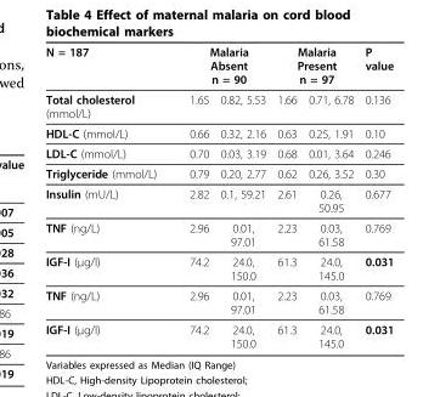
<table><thead><tr><td rowspan="2">N = 187 Total cholesterol (mmol/L)</td><td colspan="2">Malaria Absent n = 90</td><td colspan="2">Malaria Present n = 97</td><td rowspan="2">P value 0.136</td></tr><tr><td>1.65</td><td>0.82, 5.53</td><td>1.66</td><td>0.71, 6.78</td></tr></thead><tbody><tr><td>HDL-C (mmol/L)</td><td>0.66</td><td>0.32, 2.16</td><td>0.63</td><td>0.25, 1.91</td><td>0.10</td></tr><tr><td>LDL-C (mmol/L)</td><td>0.70</td><td>0.03, 3.19</td><td>0.68</td><td>0.01, 3.64</td><td>0.246</td></tr><tr><td>Triglyceride (mmol/L)</td><td>0.79</td><td>0.20, 2.77</td><td>0.62</td><td>0.26, 3.52</td><td>0.30</td></tr><tr><td>Insulin (mU/L)</td><td>2.82</td><td>0.1, 59.21</td><td>2.61</td><td>0.26, 50.95</td><td>0.677</td></tr><tr><td>TNF (ng/L)</td><td>2.96</td><td>0.01, 97.01</td><td>2.23</td><td>0.03, 61.58</td><td>0.769</td></tr><tr><td>IGF-I (μg/l)</td><td>74.2</td><td>24.0, 150.0</td><td>61.3</td><td>24.0, 145.0</td><td>0.031</td></tr><tr><td>TNF (ng/L)</td><td>2.96</td><td>0.01, 97.01</td><td>2.23</td><td>0.03, 61.58</td><td>0.769</td></tr><tr><td>IGF-I (μg/l)</td><td>74.2</td><td>24.0, 150.0</td><td>61.3</td><td>24.0, 145.0</td><td>0.031</td></tr></tbody></table>